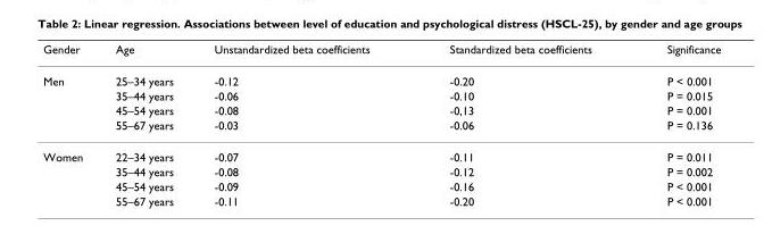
<table><thead><tr><td>Gender</td><td>Age</td><td>Unstandardized beta coefficients</td><td>Standardized beta coefficients</td><td>Significance</td></tr></thead><tbody><tr><td rowspan="4">Men</td><td>25–34 years</td><td>-0.12</td><td>-0.20</td><td>P &lt; 0.001</td></tr><tr><td>35–44 years</td><td>-0.06</td><td>-0.10</td><td>P = 0.015</td></tr><tr><td>45–54 years</td><td>-0.08</td><td>-0,13</td><td>P = 0.001</td></tr><tr><td>55–67 years</td><td>-0.03</td><td>-0.06</td><td>P = 0.136</td></tr><tr><td rowspan="4">Women</td><td>22–34 years</td><td>-0.07</td><td>-0.11</td><td>P = 0.011</td></tr><tr><td>35–44 years</td><td>-0.08</td><td>-0.12</td><td>P = 0.002</td></tr><tr><td>45–54 years</td><td>-0.09</td><td>-0.16</td><td>P &lt; 0.001</td></tr><tr><td>55–67 years</td><td>-0.11</td><td>-0.20</td><td>P &lt; 0.001</td></tr></tbody></table>